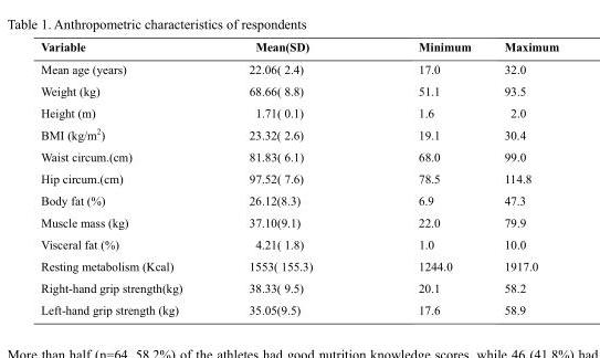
<table><thead><tr><td>Variable</td><td>Mean(SD)</td><td>Minimum</td><td>Maximum</td></tr></thead><tbody><tr><td>Mean age (years)</td><td>22.06( 2.4)</td><td>17.0</td><td>32.0</td></tr><tr><td>Weight (kg)</td><td>68.66( 8.8)</td><td>51.1</td><td>93.5</td></tr><tr><td>Height (m)</td><td>1.71( 0.1)</td><td>1.6</td><td>2.0</td></tr><tr><td>BMI (kg/m<sup>2</sup>)</td><td>23.32( 2.6)</td><td>19.1</td><td>30.4</td></tr><tr><td>Waist circum.(cm)</td><td>81.83( 6.1)</td><td>68.0</td><td>99.0</td></tr><tr><td>Hip circum.(cm)</td><td>97.52( 7.6)</td><td>78.5</td><td>114.8</td></tr><tr><td>Body fat (%)</td><td>26.12(8.3)</td><td>6.9</td><td>47.3</td></tr><tr><td>Muscle mass (kg)</td><td>37.10(9.1)</td><td>22.0</td><td>79.9</td></tr><tr><td>Visceral fat (%)</td><td>4.21( 1.8)</td><td>1.0</td><td>10.0</td></tr><tr><td>Resting metabolism (Kcal)</td><td>1553( 155.3)</td><td>1244.0</td><td>1917.0</td></tr><tr><td>Right-hand grip strength(kg)</td><td>38.33( 9.5)</td><td>20.1</td><td>58.2</td></tr><tr><td>Left-hand grip strength (kg)</td><td>35.05(9.5)</td><td>17.6</td><td>58.9</td></tr></tbody></table>